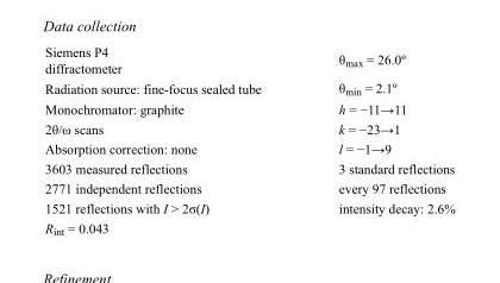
<table><tbody><tr><td>Siemens P4 diffractometer</td><td>θ<sub>max</sub> = 26.0º</td></tr><tr><td>Radiation source: fine-focus sealed tube</td><td>θ<sub>min</sub> = 2.1º</td></tr><tr><td>Monochromator: graphite</td><td>h = −11→11</td></tr><tr><td>2θ/ω scans</td><td>k = −23→1</td></tr><tr><td>Absorption correction: none</td><td>l = −1→9</td></tr><tr><td>3603 measured reflections</td><td>3 standard reflections</td></tr><tr><td>2771 independent reflections</td><td>every 97 reflections</td></tr><tr><td>1521 reflections with I &gt; 2σ(I)</td><td>intensity decay: 2.6%</td></tr><tr><td>R<sub>int</sub> = 0.043</td><td></td></tr></tbody></table>